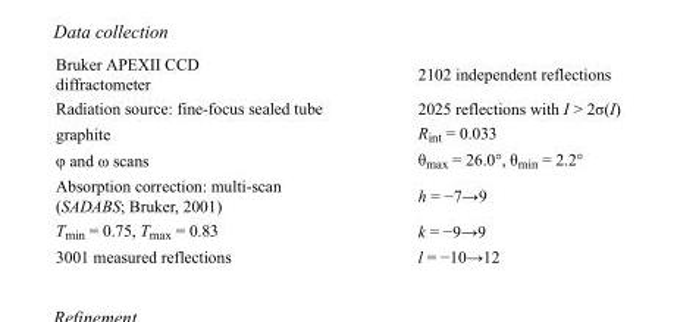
<table><tbody><tr><td>Bruker APEXII CCD diffractometer</td><td>2102 independent reflections</td></tr><tr><td>Radiation source: fine-focus sealed tube</td><td>2025 reflections with I &gt; 2σ(I)</td></tr><tr><td>graphite</td><td>R<sub>int</sub> = 0.033</td></tr><tr><td>φ and ω scans</td><td>θ<sub>max</sub> = 26.0°, θ<sub>min</sub> = 2.2°</td></tr><tr><td>Absorption correction: multi-scan (SADABS; Bruker, 2001)</td><td>h = −7→9</td></tr><tr><td>T<sub>min</sub> = 0.75, T<sub>max</sub> = 0.83</td><td>k = −9→9</td></tr><tr><td>3001 measured reflections</td><td>l = −10→12</td></tr></tbody></table>